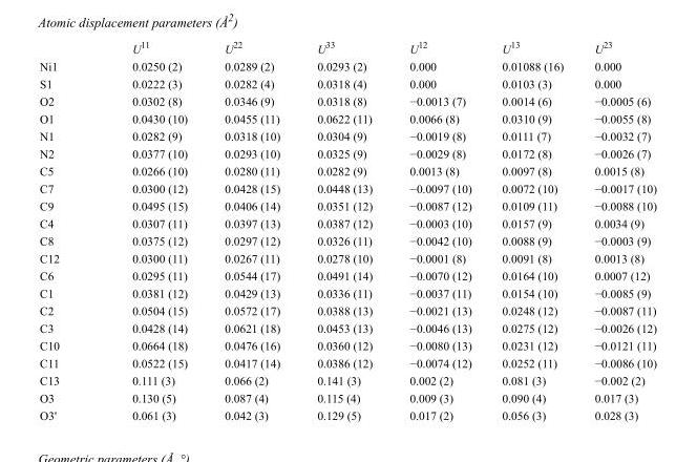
<table><thead><tr><td></td><td>U<sup>11</sup></td><td>U<sup>22</sup></td><td>U<sup>33</sup></td><td>U<sup>12</sup></td><td>U<sup>13</sup></td><td>U<sup>23</sup></td></tr></thead><tbody><tr><td>Ni1</td><td>0.0250 (2)</td><td>0.0289 (2)</td><td>0.0293 (2)</td><td>0.000</td><td>0.01088 (16)</td><td>0.000</td></tr><tr><td>S1</td><td>0.0222 (3)</td><td>0.0282 (4)</td><td>0.0318 (4)</td><td>0.000</td><td>0.0103 (3)</td><td>0.000</td></tr><tr><td>O2</td><td>0.0302 (8)</td><td>0.0346 (9)</td><td>0.0318 (8)</td><td>−0.0013 (7)</td><td>0.0014 (6)</td><td>−0.0005 (6)</td></tr><tr><td>O1</td><td>0.0430 (10)</td><td>0.0455 (11)</td><td>0.0622 (11)</td><td>0.0066 (8)</td><td>0.0310 (9)</td><td>−0.0055 (8)</td></tr><tr><td>N1</td><td>0.0282 (9)</td><td>0.0318 (10)</td><td>0.0304 (9)</td><td>−0.0019 (8)</td><td>0.0111 (7)</td><td>−0.0032 (7)</td></tr><tr><td>N2</td><td>0.0377 (10)</td><td>0.0293 (10)</td><td>0.0325 (9)</td><td>−0.0029 (8)</td><td>0.0172 (8)</td><td>−0.0026 (7)</td></tr><tr><td>C5</td><td>0.0266 (10)</td><td>0.0280 (11)</td><td>0.0282 (9)</td><td>0.0013 (8)</td><td>0.0097 (8)</td><td>0.0015 (8)</td></tr><tr><td>C7</td><td>0.0300 (12)</td><td>0.0428 (15)</td><td>0.0448 (13)</td><td>−0.0097 (10)</td><td>0.0072 (10)</td><td>−0.0017 (10)</td></tr><tr><td>C9</td><td>0.0495 (15)</td><td>0.0406 (14)</td><td>0.0351 (12)</td><td>−0.0087 (12)</td><td>0.0109 (11)</td><td>−0.0088 (10)</td></tr><tr><td>C4</td><td>0.0307 (11)</td><td>0.0397 (13)</td><td>0.0387 (12)</td><td>−0.0003 (10)</td><td>0.0157 (9)</td><td>0.0034 (9)</td></tr><tr><td>C8</td><td>0.0375 (12)</td><td>0.0297 (12)</td><td>0.0326 (11)</td><td>−0.0042 (10)</td><td>0.0088 (9)</td><td>−0.0003 (9)</td></tr><tr><td>C12</td><td>0.0300 (11)</td><td>0.0267 (11)</td><td>0.0278 (10)</td><td>−0.0001 (8)</td><td>0.0091 (8)</td><td>0.0013 (8)</td></tr><tr><td>C6</td><td>0.0295 (11)</td><td>0.0544 (17)</td><td>0.0491 (14)</td><td>−0.0070 (12)</td><td>0.0164 (10)</td><td>0.0007 (12)</td></tr><tr><td>C1</td><td>0.0381 (12)</td><td>0.0429 (13)</td><td>0.0336 (11)</td><td>−0.0037 (11)</td><td>0.0154 (10)</td><td>−0.0085 (9)</td></tr><tr><td>C2</td><td>0.0504 (15)</td><td>0.0572 (17)</td><td>0.0388 (13)</td><td>−0.0021 (13)</td><td>0.0248 (12)</td><td>−0.0087 (11)</td></tr><tr><td>C3</td><td>0.0428 (14)</td><td>0.0621 (18)</td><td>0.0453 (13)</td><td>−0.0046 (13)</td><td>0.0275 (12)</td><td>−0.0026 (12)</td></tr><tr><td>C10</td><td>0.0664 (18)</td><td>0.0476 (16)</td><td>0.0360 (12)</td><td>−0.0080 (13)</td><td>0.0231 (12)</td><td>−0.0121 (11)</td></tr><tr><td>C11</td><td>0.0522 (15)</td><td>0.0417 (14)</td><td>0.0386 (12)</td><td>−0.0074 (12)</td><td>0.0252 (11)</td><td>−0.0086 (10)</td></tr><tr><td>C13</td><td>0.111 (3)</td><td>0.066 (2)</td><td>0.141 (3)</td><td>0.002 (2)</td><td>0.081 (3)</td><td>−0.002 (2)</td></tr><tr><td>O3</td><td>0.130 (5)</td><td>0.087 (4)</td><td>0.115 (4)</td><td>0.009 (3)</td><td>0.090 (4)</td><td>0.017 (3)</td></tr><tr><td>O3&#x27;</td><td>0.061 (3)</td><td>0.042 (3)</td><td>0.129 (5)</td><td>0.017 (2)</td><td>0.056 (3)</td><td>0.028 (3)</td></tr></tbody></table>